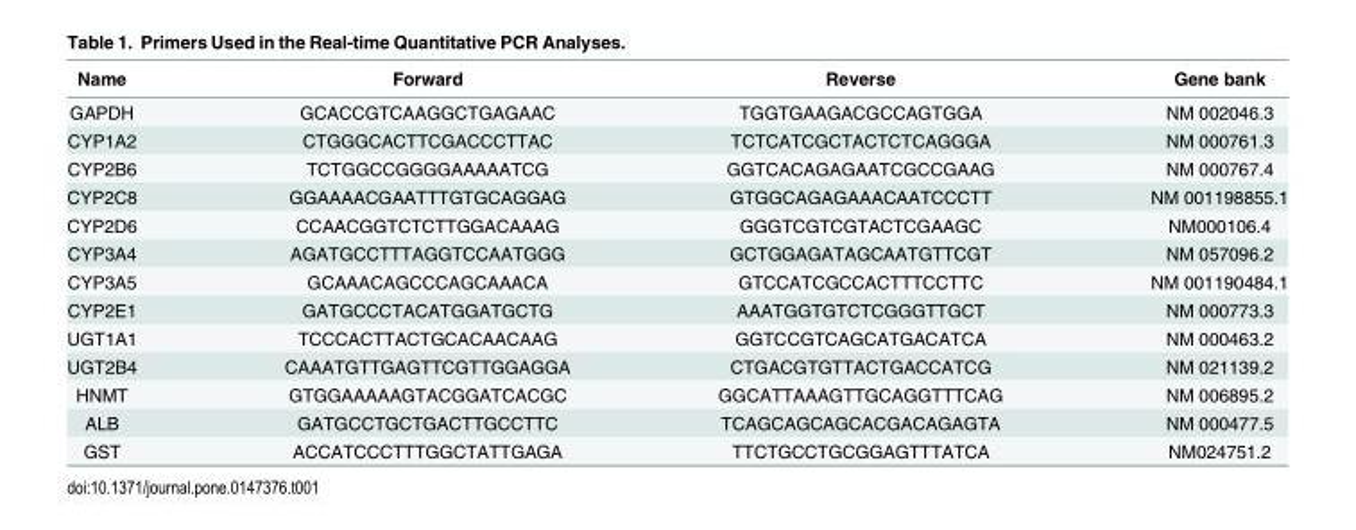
<table><thead><tr><td>Name</td><td>Forward</td><td>Reverse</td><td>Gene bank</td></tr></thead><tbody><tr><td>GAPDH</td><td>GCACCGTCAAGGCTGAGAAC</td><td>TGGTGAAGACGCCAGTGGA</td><td>NM 002046.3</td></tr><tr><td>CYP1A2</td><td>CTGGGCACTTCGACCCTTAC</td><td>TCTCATCGCTACTCTCAGGGA</td><td>NM 000761.3</td></tr><tr><td>CYP2B6</td><td>TCTGGCCGGGGAAAAATCG</td><td>GGTCACAGAGAATCGCCGAAG</td><td>NM 000767.4</td></tr><tr><td>CYP2C8</td><td>GGAAAACGAATTTGTGCAGGAG</td><td>GTGGCAGAGAAACAATCCCTT</td><td>NM 001198855.1</td></tr><tr><td>CYP2D6</td><td>CCAACGGTCTCTTGGACAAAG</td><td>GGGTCGTCGTACTCGAAGC</td><td>NM000106.4</td></tr><tr><td>CYP3A4</td><td>AGATGCCTTTAGGTCCAATGGG</td><td>GCTGGAGATAGCAATGTTCGT</td><td>NM 057096.2</td></tr><tr><td>CYP3A5</td><td>GCAAACAGCCCAGCAAACA</td><td>GTCCATCGCCACTTTCCTTC</td><td>NM 001190484.1</td></tr><tr><td>CYP2E1</td><td>GATGCCCTACATGGATGCTG</td><td>AAATGGTGTCTCGGGTTGCT</td><td>NM 000773.3</td></tr><tr><td>UGT1A1</td><td>TCCCACTTACTGCACAACAAG</td><td>GGTCCGTCAGCATGACATCA</td><td>NM 000463.2</td></tr><tr><td>UGT2B4</td><td>CAAATGTTGAGTTCGTTGGAGGA</td><td>CTGACGTGTTACTGACCATCG</td><td>NM 021139.2</td></tr><tr><td>HNMT</td><td>GTGGAAAAAGTACGGATCACGC</td><td>GGCATTAAAGTTGCAGGTTTCAG</td><td>NM 006895.2</td></tr><tr><td>ALB</td><td>GATGCCTGCTGACTTGCCTTC</td><td>TCAGCAGCAGCACGACAGAGTA</td><td>NM 000477.5</td></tr><tr><td>GST</td><td>ACCATCCCTTTGGCTATTGAGA</td><td>TTCTGCCTGCGGAGTTTATCA</td><td>NM024751.2</td></tr></tbody></table>